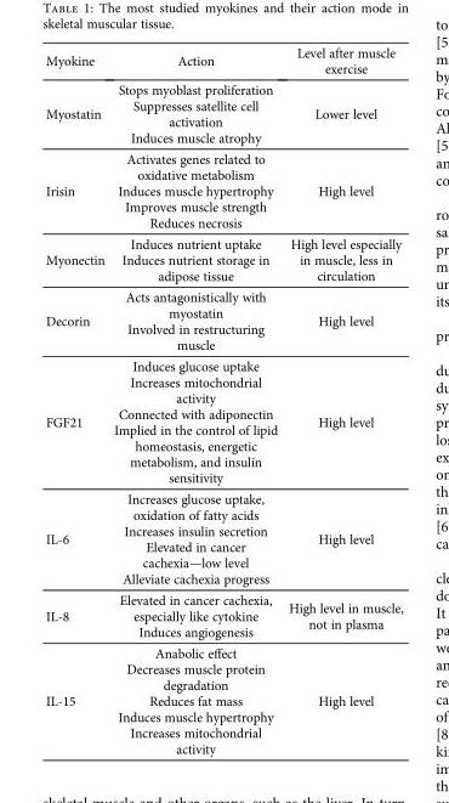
<table><thead><tr><td>Myokine</td><td>Action</td><td>Level after muscle exercise</td></tr></thead><tbody><tr><td>Myostatin</td><td>Stops myoblast proliferation Suppresses satellite cell activation Induces muscle atrophy</td><td>Lower level</td></tr><tr><td>Irisin</td><td>Activates genes related to oxidative metabolism Induces muscle hypertrophy Improves muscle strength Reduces necrosis</td><td>High level</td></tr><tr><td>Myonectin</td><td>Induces nutrient uptake Induces nutrient storage in adipose tissue</td><td>High level especially in muscle, less in circulation</td></tr><tr><td>Decorin</td><td>Acts antagonistically with myostatin Involved in restructuring muscle</td><td>High level</td></tr><tr><td>FGF21</td><td>Induces glucose uptake Increases mitochondrial activity Connected with adiponectin Implied in the control of lipid homeostasis, energetic metabolism, and insulin sensitivity</td><td>High level</td></tr><tr><td>IL-6</td><td>Increases glucose uptake, oxidation of fatty acids Increases insulin secretion Elevated in cancer cachexia—low level Alleviate cachexia progress</td><td>High level</td></tr><tr><td>IL-8</td><td>Elevated in cancer cachexia, especially like cytokine Induces angiogenesis</td><td>High level in muscle, not in plasma</td></tr><tr><td>IL-15</td><td>Anabolic effect Decreases muscle protein degradation Reduces fat mass Induces muscle hypertrophy Increases mitochondrial activity</td><td>High level</td></tr></tbody></table>